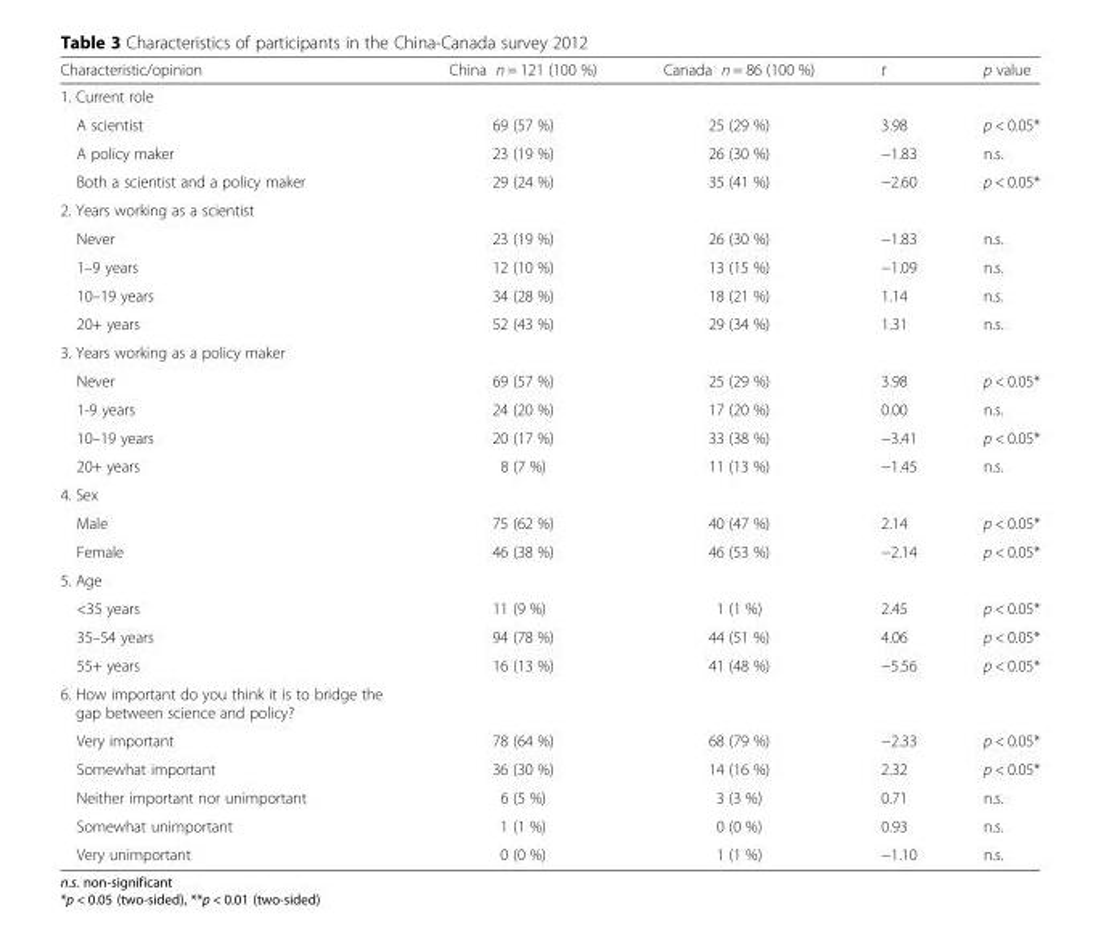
<table><thead><tr><td>Characteristic/opinion</td><td>China n = 121 (100 %)</td><td>Canada n = 86 (100 %)</td><td>t</td><td>p value</td></tr></thead><tbody><tr><td colspan="5">1. Current role</td></tr><tr><td>A scientist</td><td>69 (57 %)</td><td>25 (29 %)</td><td>3.98</td><td>p &lt; 0.05*</td></tr><tr><td>A policy maker</td><td>23 (19 %)</td><td>26 (30 %)</td><td>−1.83</td><td>n.s.</td></tr><tr><td>Both a scientist and a policy maker</td><td>29 (24 %)</td><td>35 (41 %)</td><td>−2.60</td><td>p &lt; 0.05*</td></tr><tr><td colspan="5">2. Years working as a scientist</td></tr><tr><td>Never</td><td>23 (19 %)</td><td>26 (30 %)</td><td>−1.83</td><td>n.s.</td></tr><tr><td>1–9 years</td><td>12 (10 %)</td><td>13 (15 %)</td><td>−1.09</td><td>n.s.</td></tr><tr><td>10–19 years</td><td>34 (28 %)</td><td>18 (21 %)</td><td>1.14</td><td>n.s.</td></tr><tr><td>20+ years</td><td>52 (43 %)</td><td>29 (34 %)</td><td>1.31</td><td>n.s.</td></tr><tr><td colspan="5">3. Years working as a policy maker</td></tr><tr><td>Never</td><td>69 (57 %)</td><td>25 (29 %)</td><td>3.98</td><td>p &lt; 0.05*</td></tr><tr><td>1-9 years</td><td>24 (20 %)</td><td>17 (20 %)</td><td>0.00</td><td>n.s.</td></tr><tr><td>10–19 years</td><td>20 (17 %)</td><td>33 (38 %)</td><td>−3.41</td><td>p &lt; 0.05*</td></tr><tr><td>20+ years</td><td>8 (7 %)</td><td>11 (13 %)</td><td>−1.45</td><td>n.s.</td></tr><tr><td colspan="5">4. Sex</td></tr><tr><td>Male</td><td>75 (62 %)</td><td>40 (47 %)</td><td>2.14</td><td>p &lt; 0.05*</td></tr><tr><td>Female</td><td>46 (38 %)</td><td>46 (53 %)</td><td>−2.14</td><td>p &lt; 0.05*</td></tr><tr><td colspan="5">5. Age</td></tr><tr><td>&lt;35 years</td><td>11 (9 %)</td><td>1 (1 %)</td><td>2.45</td><td>p &lt; 0.05*</td></tr><tr><td>35–54 years</td><td>94 (78 %)</td><td>44 (51 %)</td><td>4.06</td><td>p &lt; 0.05*</td></tr><tr><td>55+ years</td><td>16 (13 %)</td><td>41 (48 %)</td><td>−5.56</td><td>p &lt; 0.05*</td></tr><tr><td colspan="5">6. How important do you think it is to bridge the gap between science and policy?</td></tr><tr><td>Very important</td><td>78 (64 %)</td><td>68 (79 %)</td><td>−2.33</td><td>p &lt; 0.05*</td></tr><tr><td>Somewhat important</td><td>36 (30 %)</td><td>14 (16 %)</td><td>2.32</td><td>p &lt; 0.05*</td></tr><tr><td>Neither important nor unimportant</td><td>6 (5 %)</td><td>3 (3 %)</td><td>0.71</td><td>n.s.</td></tr><tr><td>Somewhat unimportant</td><td>1 (1 %)</td><td>0 (0 %)</td><td>0.93</td><td>n.s.</td></tr><tr><td>Very unimportant</td><td>0 (0 %)</td><td>1 (1 %)</td><td>−1.10</td><td>n.s.</td></tr></tbody></table>